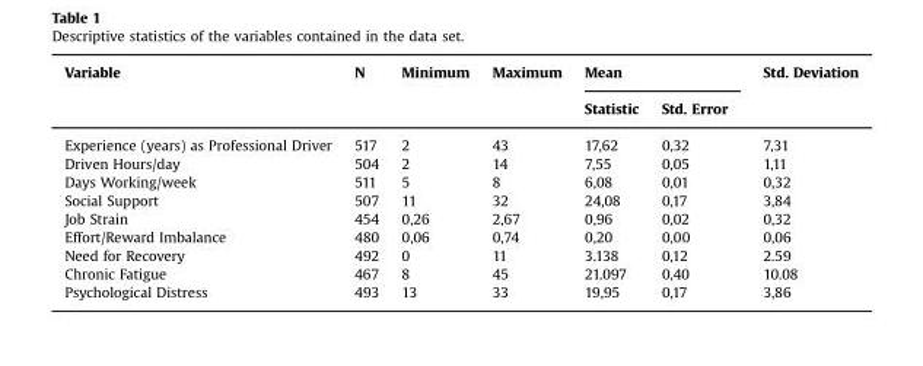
<table><thead><tr><td rowspan="2">Variable</td><td rowspan="2">N</td><td rowspan="2">Minimum</td><td rowspan="2">Maximum</td><td colspan="2">Mean</td><td rowspan="2">Std. Deviation</td></tr><tr><td>Statistic</td><td>Std. Error</td></tr></thead><tbody><tr><td>Experience (years) as Professional Driver</td><td>517</td><td>2</td><td>43</td><td>17,62</td><td>0,32</td><td>7,31</td></tr><tr><td>Driven Hours/day</td><td>504</td><td>2</td><td>14</td><td>7,55</td><td>0,05</td><td>1,11</td></tr><tr><td>Days Working/week</td><td>511</td><td>5</td><td>8</td><td>6,08</td><td>0,01</td><td>0,32</td></tr><tr><td>Social Support</td><td>507</td><td>11</td><td>32</td><td>24,08</td><td>0,17</td><td>3,84</td></tr><tr><td>Job Strain</td><td>454</td><td>0,26</td><td>2,67</td><td>0,96</td><td>0,02</td><td>0,32</td></tr><tr><td>Effort/Reward Imbalance</td><td>480</td><td>0,06</td><td>0,74</td><td>0,20</td><td>0,00</td><td>0,06</td></tr><tr><td>Need for Recovery</td><td>492</td><td>0</td><td>11</td><td>3.138</td><td>0,12</td><td>2.59</td></tr><tr><td>Chronic Fatigue</td><td>467</td><td>8</td><td>45</td><td>21.097</td><td>0,40</td><td>10.08</td></tr><tr><td>Psychological Distress</td><td>493</td><td>13</td><td>33</td><td>19,95</td><td>0,17</td><td>3,86</td></tr></tbody></table>